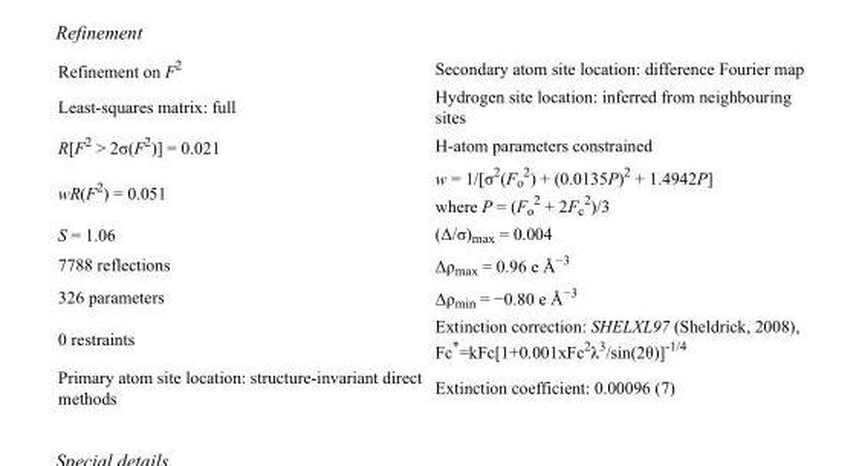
<table><tbody><tr><td>Refinement on F<sup>2</sup></td><td>Secondary atom site location: difference Fourier map</td></tr><tr><td>Least-squares matrix: full</td><td>Hydrogen site location: inferred from neighbouring sites</td></tr><tr><td>R[F<sup>2</sup> &gt; 2σ(F<sup>2</sup>)] = 0.021</td><td>H-atom parameters constrained</td></tr><tr><td>wR(F<sup>2</sup>) = 0.051</td><td>w = 1/[σ<sup>2</sup>(F<sub>o</sub> <sup>2</sup>) + (0.0135P)<sup>2</sup> + 1.4942P] where P = (F<sub>o</sub> <sup>2</sup> + 2F<sub>c</sub> <sup>2</sup>)/3</td></tr><tr><td>S = 1.06</td><td>(Δ/σ)<sub>max</sub> = 0.004</td></tr><tr><td>7788 reflections</td><td>Δρ<sub>max</sub> = 0.96 e Å<sup>−3</sup></td></tr><tr><td>326 parameters</td><td>Δρ<sub>min</sub> = −0.80 e Å<sup>−3</sup></td></tr><tr><td>0 restraints</td><td>Extinction correction: SHELXL97 (Sheldrick, 2008), Fc*=kFc[1+0.001xFc<sup>2</sup>λ<sup>3</sup>/sin(2θ)]<sup>-1/4</sup></td></tr><tr><td>Primary atom site location: structure-invariant direct methods</td><td>Extinction coefficient: 0.00096 (7)</td></tr></tbody></table>